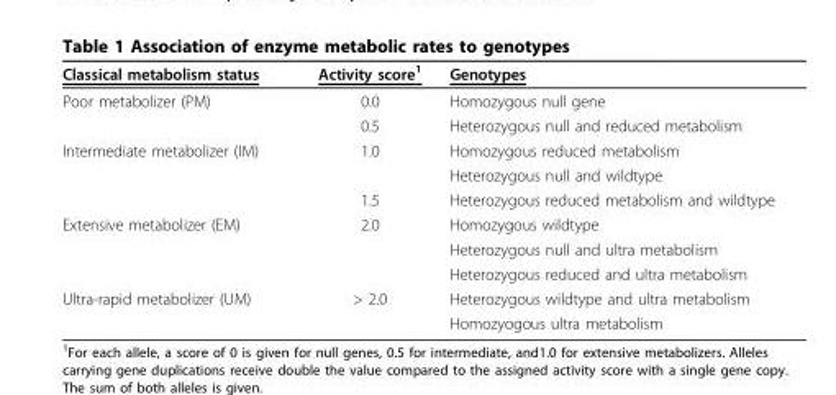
<table><thead><tr><td>Classical metabolism status</td><td>Activity score<sup>1</sup></td><td>Genotypes</td></tr></thead><tbody><tr><td rowspan="2">Poor metabolizer (PM)</td><td>0.0</td><td>Homozygous null gene</td></tr><tr><td>0.5</td><td>Heterozygous null and reduced metabolism</td></tr><tr><td rowspan="3">Intermediate metabolizer (IM)</td><td>1.0</td><td>Homozygous reduced metabolism</td></tr><tr><td></td><td>Heterozygous null and wildtype</td></tr><tr><td>1.5</td><td>Heterozygous reduced metabolism and wildtype</td></tr><tr><td rowspan="3">Extensive metabolizer (EM)</td><td>2.0</td><td>Homozygous wildtype</td></tr><tr><td></td><td>Heterozygous null and ultra metabolism</td></tr><tr><td></td><td>Heterozygous reduced and ultra metabolism</td></tr><tr><td rowspan="2">Ultra-rapid metabolizer (UM)</td><td>&gt; 2.0</td><td>Heterozygous wildtype and ultra metabolism</td></tr><tr><td></td><td>Homozyogous ultra metabolism</td></tr></tbody></table>